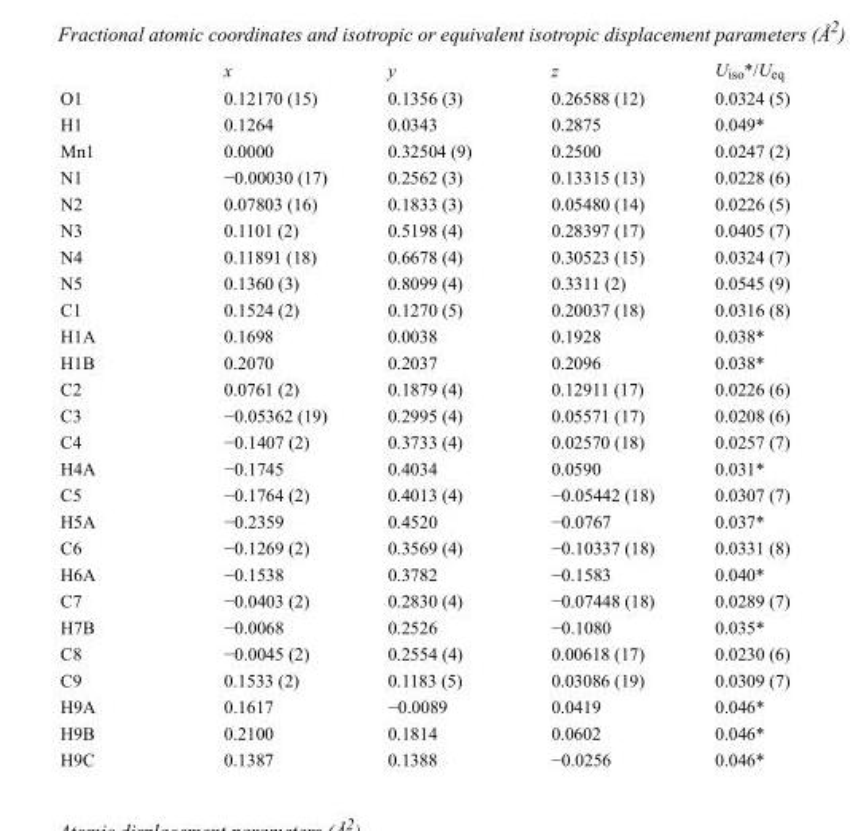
<table><thead><tr><td></td><td>x</td><td>y</td><td>z</td><td>U<sub>iso</sub>*/U<sub>eq</sub></td></tr></thead><tbody><tr><td>O1</td><td>0.12170 (15)</td><td>0.1356 (3)</td><td>0.26588 (12)</td><td>0.0324 (5)</td></tr><tr><td>H1</td><td>0.1264</td><td>0.0343</td><td>0.2875</td><td>0.049*</td></tr><tr><td>Mn1</td><td>0.0000</td><td>0.32504 (9)</td><td>0.2500</td><td>0.0247 (2)</td></tr><tr><td>N1</td><td>−0.00030 (17)</td><td>0.2562 (3)</td><td>0.13315 (13)</td><td>0.0228 (6)</td></tr><tr><td>N2</td><td>0.07803 (16)</td><td>0.1833 (3)</td><td>0.05480 (14)</td><td>0.0226 (5)</td></tr><tr><td>N3</td><td>0.1101 (2)</td><td>0.5198 (4)</td><td>0.28397 (17)</td><td>0.0405 (7)</td></tr><tr><td>N4</td><td>0.11891 (18)</td><td>0.6678 (4)</td><td>0.30523 (15)</td><td>0.0324 (7)</td></tr><tr><td>N5</td><td>0.1360 (3)</td><td>0.8099 (4)</td><td>0.3311 (2)</td><td>0.0545 (9)</td></tr><tr><td>C1</td><td>0.1524 (2)</td><td>0.1270 (5)</td><td>0.20037 (18)</td><td>0.0316 (8)</td></tr><tr><td>H1A</td><td>0.1698</td><td>0.0038</td><td>0.1928</td><td>0.038*</td></tr><tr><td>H1B</td><td>0.2070</td><td>0.2037</td><td>0.2096</td><td>0.038*</td></tr><tr><td>C2</td><td>0.0761 (2)</td><td>0.1879 (4)</td><td>0.12911 (17)</td><td>0.0226 (6)</td></tr><tr><td>C3</td><td>−0.05362 (19)</td><td>0.2995 (4)</td><td>0.05571 (17)</td><td>0.0208 (6)</td></tr><tr><td>C4</td><td>−0.1407 (2)</td><td>0.3733 (4)</td><td>0.02570 (18)</td><td>0.0257 (7)</td></tr><tr><td>H4A</td><td>−0.1745</td><td>0.4034</td><td>0.0590</td><td>0.031*</td></tr><tr><td>C5</td><td>−0.1764 (2)</td><td>0.4013 (4)</td><td>−0.05442 (18)</td><td>0.0307 (7)</td></tr><tr><td>H5A</td><td>−0.2359</td><td>0.4520</td><td>−0.0767</td><td>0.037*</td></tr><tr><td>C6</td><td>−0.1269 (2)</td><td>0.3569 (4)</td><td>−0.10337 (18)</td><td>0.0331 (8)</td></tr><tr><td>H6A</td><td>−0.1538</td><td>0.3782</td><td>−0.1583</td><td>0.040*</td></tr><tr><td>C7</td><td>−0.0403 (2)</td><td>0.2830 (4)</td><td>−0.07448 (18)</td><td>0.0289 (7)</td></tr><tr><td>H7B</td><td>−0.0068</td><td>0.2526</td><td>−0.1080</td><td>0.035*</td></tr><tr><td>C8</td><td>−0.0045 (2)</td><td>0.2554 (4)</td><td>0.00618 (17)</td><td>0.0230 (6)</td></tr><tr><td>C9</td><td>0.1533 (2)</td><td>0.1183 (5)</td><td>0.03086 (19)</td><td>0.0309 (7)</td></tr><tr><td>H9A</td><td>0.1617</td><td>−0.0089</td><td>0.0419</td><td>0.046*</td></tr><tr><td>H9B</td><td>0.2100</td><td>0.1814</td><td>0.0602</td><td>0.046*</td></tr><tr><td>H9C</td><td>0.1387</td><td>0.1388</td><td>−0.0256</td><td>0.046*</td></tr></tbody></table>